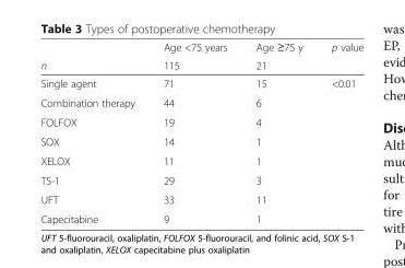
<table><thead><tr><td rowspan="2">n</td><td rowspan="2">Age &lt;75 years 115</td><td rowspan="2">Age ≥75 y 21</td><td rowspan="2">p value</td></tr><tr></tr></thead><tbody><tr><td>Single agent</td><td>71</td><td>15</td><td>&lt;0.01</td></tr><tr><td>Combination therapy</td><td>44</td><td>6</td><td></td></tr><tr><td>FOLFOX</td><td>19</td><td>4</td><td></td></tr><tr><td>SOX</td><td>14</td><td>1</td><td></td></tr><tr><td>XELOX</td><td>11</td><td>1</td><td></td></tr><tr><td>TS-1</td><td>29</td><td>3</td><td></td></tr><tr><td>UFT</td><td>33</td><td>11</td><td></td></tr><tr><td>Capecitabine</td><td>9</td><td>1</td><td></td></tr></tbody></table>